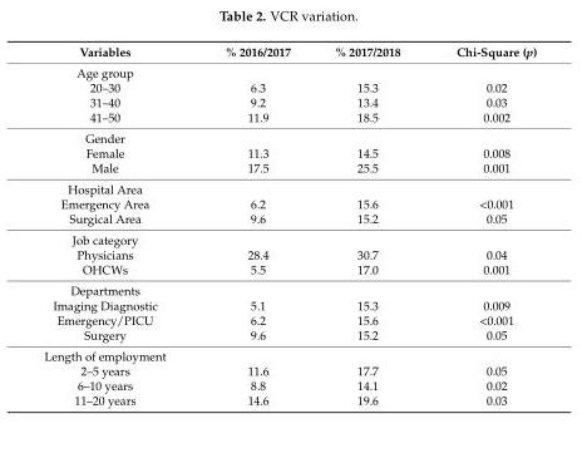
<table><thead><tr><td>Variables</td><td>% 2016/2017</td><td>% 2017/2018</td><td>Chi-Square (p)</td></tr></thead><tbody><tr><td colspan="4">Age group</td></tr><tr><td>20–30</td><td>6.3</td><td>15.3</td><td>0.02</td></tr><tr><td>31–40</td><td>9.2</td><td>13.4</td><td>0.03</td></tr><tr><td>41–50</td><td>11.9</td><td>18.5</td><td>0.002</td></tr><tr><td colspan="4">Gender</td></tr><tr><td>Female</td><td>11.3</td><td>14.5</td><td>0.008</td></tr><tr><td>Male</td><td>17.5</td><td>25.5</td><td>0.001</td></tr><tr><td colspan="4">Hospital Area</td></tr><tr><td>Emergency Area</td><td>6.2</td><td>15.6</td><td>&lt;0.001</td></tr><tr><td>Surgical Area</td><td>9.6</td><td>15.2</td><td>0.05</td></tr><tr><td colspan="4">Job category</td></tr><tr><td>Physicians</td><td>28.4</td><td>30.7</td><td>0.04</td></tr><tr><td>OHCWs</td><td>5.5</td><td>17.0</td><td>0.001</td></tr><tr><td colspan="4">Departments</td></tr><tr><td>Imaging Diagnostic</td><td>5.1</td><td>15.3</td><td>0.009</td></tr><tr><td>Emergency/PICU</td><td>6.2</td><td>15.6</td><td>&lt;0.001</td></tr><tr><td>Surgery</td><td>9.6</td><td>15.2</td><td>0.05</td></tr><tr><td colspan="4">Length of employment</td></tr><tr><td>2–5 years</td><td>11.6</td><td>17.7</td><td>0.05</td></tr><tr><td>6–10 years</td><td>8.8</td><td>14.1</td><td>0.02</td></tr><tr><td>11–20 years</td><td>14.6</td><td>19.6</td><td>0.03</td></tr></tbody></table>